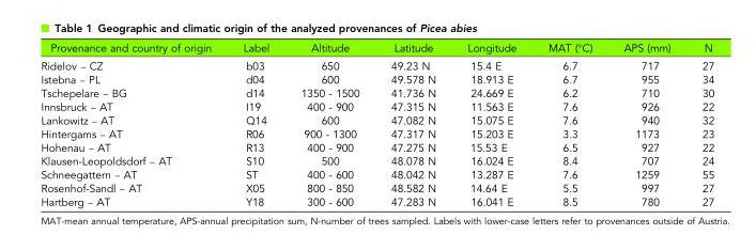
<table><thead><tr><td>Provenance and country of origin</td><td>Label</td><td>Altitude</td><td>Latitude</td><td>Longitude</td><td>MAT (°C)</td><td>APS (mm)</td><td>N</td></tr></thead><tbody><tr><td>Ridelov – CZ</td><td>b03</td><td>650</td><td>49.23 N</td><td>15.4 E</td><td>6.7</td><td>717</td><td>27</td></tr><tr><td>Istebna – PL</td><td>d04</td><td>600</td><td>49.578 N</td><td>18.913 E</td><td>6.7</td><td>955</td><td>34</td></tr><tr><td>Tschepelare – BG</td><td>d14</td><td>1350 - 1500</td><td>41.736 N</td><td>24.669 E</td><td>6.2</td><td>710</td><td>30</td></tr><tr><td>Innsbruck – AT</td><td>I19</td><td>400 - 900</td><td>47.315 N</td><td>11.563 E</td><td>7.6</td><td>926</td><td>22</td></tr><tr><td>Lankowitz – AT</td><td>Q14</td><td>600</td><td>47.082 N</td><td>15.075 E</td><td>7.6</td><td>940</td><td>32</td></tr><tr><td>Hintergams – AT</td><td>R06</td><td>900 - 1300</td><td>47.317 N</td><td>15.203 E</td><td>3.3</td><td>1173</td><td>23</td></tr><tr><td>Hohenau – AT</td><td>R13</td><td>400 - 900</td><td>47.275 N</td><td>15.53 E</td><td>6.5</td><td>927</td><td>22</td></tr><tr><td>Klausen-Leopoldsdorf – AT</td><td>S10</td><td>500</td><td>48.078 N</td><td>16.024 E</td><td>8.4</td><td>707</td><td>24</td></tr><tr><td>Schneegattern – AT</td><td>ST</td><td>400 - 600</td><td>48.042 N</td><td>13.287 E</td><td>7.6</td><td>1259</td><td>55</td></tr><tr><td>Rosenhof-Sandl – AT</td><td>X05</td><td>800 - 850</td><td>48.582 N</td><td>14.64 E</td><td>5.5</td><td>997</td><td>27</td></tr><tr><td>Hartberg – AT</td><td>Y18</td><td>300 - 600</td><td>47.283 N</td><td>16.041 E</td><td>8.5</td><td>780</td><td>27</td></tr></tbody></table>